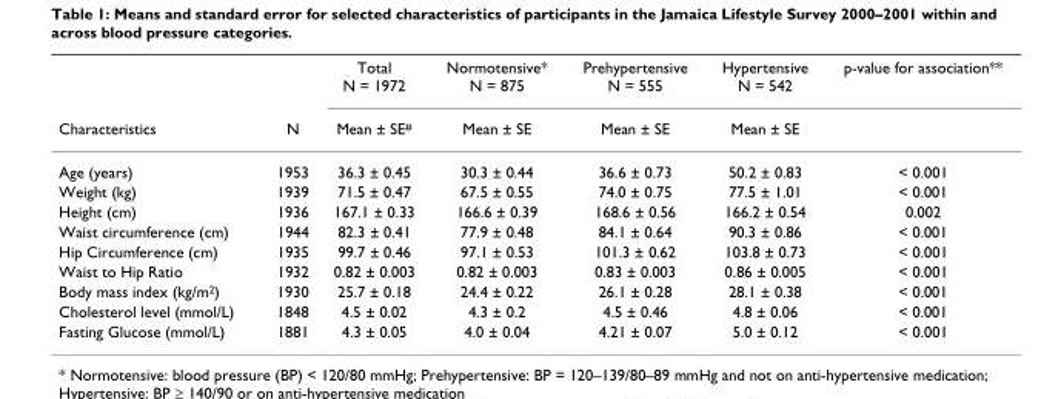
<table><thead><tr><td rowspan="2">Characteristics</td><td rowspan="2">N</td><td rowspan="2">Total N = 1972 Mean ± SE<sup>#</sup></td><td rowspan="2">Normotensive* N = 875 Mean ± SE</td><td rowspan="2">Prehypertensive N = 555 Mean ± SE</td><td rowspan="2">Hypertensive N = 542 Mean ± SE</td><td rowspan="2">p-value for association**</td></tr><tr></tr></thead><tbody><tr><td>Age (years)</td><td>1953</td><td>36.3 ± 0.45</td><td>30.3 ± 0.44</td><td>36.6 ± 0.73</td><td>50.2 ± 0.83</td><td>&lt; 0.001</td></tr><tr><td>Weight (kg)</td><td>1939</td><td>71.5 ± 0.47</td><td>67.5 ± 0.55</td><td>74.0 ± 0.75</td><td>77.5 ± 1.01</td><td>&lt; 0.001</td></tr><tr><td>Height (cm)</td><td>1936</td><td>167.1 ± 0.33</td><td>166.6 ± 0.39</td><td>168.6 ± 0.56</td><td>166.2 ± 0.54</td><td>0.002</td></tr><tr><td>Waist circumference (cm)</td><td>1944</td><td>82.3 ± 0.41</td><td>77.9 ± 0.48</td><td>84.1 ± 0.64</td><td>90.3 ± 0.86</td><td>&lt; 0.001</td></tr><tr><td>Hip Circumference (cm)</td><td>1935</td><td>99.7 ± 0.46</td><td>97.1 ± 0.53</td><td>101.3 ± 0.62</td><td>103.8 ± 0.73</td><td>&lt; 0.001</td></tr><tr><td>Waist to Hip Ratio</td><td>1932</td><td>0.82 ± 0.003</td><td>0.82 ± 0.003</td><td>0.83 ± 0.003</td><td>0.86 ± 0.005</td><td>&lt; 0.001</td></tr><tr><td>Body mass index (kg/m<sup>2</sup>)</td><td>1930</td><td>25.7 ± 0.18</td><td>24.4 ± 0.22</td><td>26.1 ± 0.28</td><td>28.1 ± 0.38</td><td>&lt; 0.001</td></tr><tr><td>Cholesterol level (mmol/L)</td><td>1848</td><td>4.5 ± 0.02</td><td>4.3 ± 0.2</td><td>4.5 ± 0.46</td><td>4.8 ± 0.06</td><td>&lt; 0.001</td></tr><tr><td>Fasting Glucose (mmol/L)</td><td>1881</td><td>4.3 ± 0.05</td><td>4.0 ± 0.04</td><td>4.21 ± 0.07</td><td>5.0 ± 0.12</td><td>&lt; 0.001</td></tr></tbody></table>